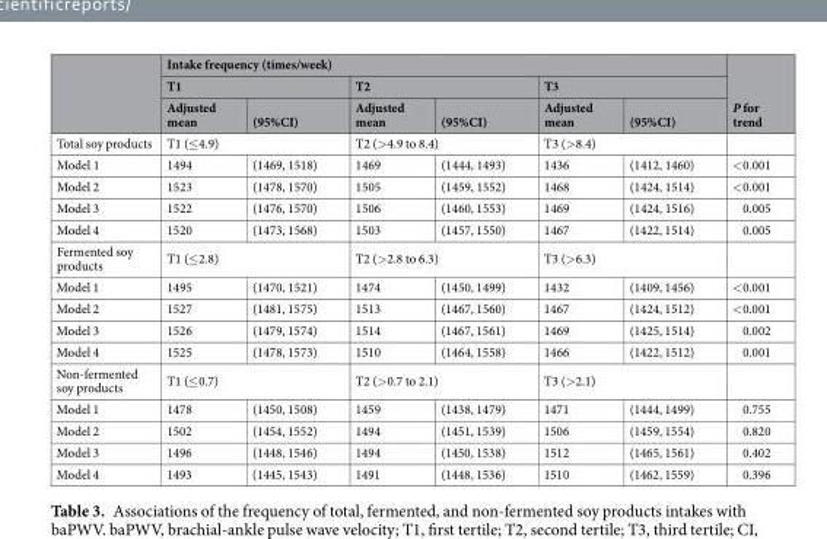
<table><thead><tr><td rowspan="3"></td><td colspan="6">Intake frequency (times/week)</td><td rowspan="3">P for trend</td></tr><tr><td colspan="2">T1</td><td colspan="2">T2</td><td colspan="2">T3</td></tr><tr><td>Adjusted mean</td><td>(95%CI)</td><td>Adjusted mean</td><td>(95%CI)</td><td>Adjusted mean</td><td>(95%CI)</td></tr></thead><tbody><tr><td>Total soy products</td><td colspan="2">T1 (≤4.9)</td><td colspan="2">T2 (&gt;4.9 to 8.4)</td><td colspan="2">T3 (&gt;8.4)</td><td></td></tr><tr><td>Model 1</td><td>1494</td><td>(1469, 1518)</td><td>1469</td><td>(1444, 1493)</td><td>1436</td><td>(1412, 1460)</td><td>&lt;0.001</td></tr><tr><td>Model 2</td><td>1523</td><td>(1478, 1570)</td><td>1505</td><td>(1459, 1552)</td><td>1468</td><td>(1424, 1514)</td><td>&lt;0.001</td></tr><tr><td>Model 3</td><td>1522</td><td>(1476, 1570)</td><td>1506</td><td>(1460, 1553)</td><td>1469</td><td>(1424, 1516)</td><td>0.005</td></tr><tr><td>Model 4</td><td>1520</td><td>(1473, 1568)</td><td>1503</td><td>(1457, 1550)</td><td>1467</td><td>(1422, 1514)</td><td>0.005</td></tr><tr><td>Fermented soy products</td><td colspan="2">T1 (≤2.8)</td><td colspan="2">T2 (&gt;2.8 to 6.3)</td><td colspan="2">T3 (&gt;6.3)</td><td></td></tr><tr><td>Model 1</td><td>1495</td><td>(1470, 1521)</td><td>1474</td><td>(1450, 1499)</td><td>1432</td><td>(1409, 1456)</td><td>&lt;0.001</td></tr><tr><td>Model 2</td><td>1527</td><td>(1481, 1575)</td><td>1513</td><td>(1467, 1560)</td><td>1467</td><td>(1424, 1512)</td><td>&lt;0.001</td></tr><tr><td>Model 3</td><td>1526</td><td>(1479, 1574)</td><td>1514</td><td>(1467, 1561)</td><td>1469</td><td>(1425, 1514)</td><td>0.002</td></tr><tr><td>Model 4</td><td>1525</td><td>(1478, 1573)</td><td>1510</td><td>(1464, 1558)</td><td>1466</td><td>(1422, 1512)</td><td>0.001</td></tr><tr><td>Non-fermented soy products</td><td colspan="2">T1 (≤0.7)</td><td colspan="2">T2 (&gt;0.7 to 2.1)</td><td colspan="2">T3 (&gt;2.1)</td><td></td></tr><tr><td>Model 1</td><td>1478</td><td>(1450, 1508)</td><td>1459</td><td>(1438, 1479)</td><td>1471</td><td>(1444, 1499)</td><td>0.755</td></tr><tr><td>Model 2</td><td>1502</td><td>(1454, 1552)</td><td>1494</td><td>(1451, 1539)</td><td>1506</td><td>(1459, 1554)</td><td>0.820</td></tr><tr><td>Model 3</td><td>1496</td><td>(1448, 1546)</td><td>1494</td><td>(1450, 1538)</td><td>1512</td><td>(1465, 1561)</td><td>0.402</td></tr><tr><td>Model 4</td><td>1493</td><td>(1445, 1543)</td><td>1491</td><td>(1448, 1536)</td><td>1510</td><td>(1462, 1559)</td><td>0.396</td></tr></tbody></table>